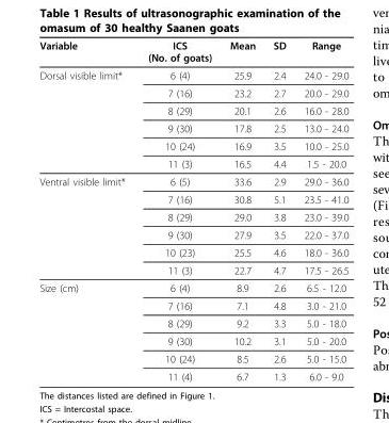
<table><thead><tr><td>Variable</td><td>ICS (No. of goats)</td><td>Mean</td><td>SD</td><td>Range</td></tr></thead><tbody><tr><td rowspan="6">Dorsal visible limit*</td><td>6 (4)</td><td>25.9</td><td>2.4</td><td>24.0 - 29.0</td></tr><tr><td>7 (16)</td><td>23.2</td><td>2.7</td><td>20.0 - 29.0</td></tr><tr><td>8 (29)</td><td>20.1</td><td>2.6</td><td>16.0 - 28.0</td></tr><tr><td>9 (30)</td><td>17.8</td><td>2.5</td><td>13.0 - 24.0</td></tr><tr><td>10 (24)</td><td>16.9</td><td>3.5</td><td>10.0 - 25.0</td></tr><tr><td>11 (3)</td><td>16.5</td><td>4.4</td><td>1.5 - 20.0</td></tr><tr><td rowspan="6">Ventral visible limit*</td><td>6 (5)</td><td>33.6</td><td>2.9</td><td>29.0 - 36.0</td></tr><tr><td>7 (16)</td><td>30.8</td><td>5.1</td><td>23.5 - 41.0</td></tr><tr><td>8 (29)</td><td>29.0</td><td>3.8</td><td>23.0 - 39.0</td></tr><tr><td>9 (30)</td><td>27.9</td><td>3.5</td><td>22.0 - 37.0</td></tr><tr><td>10 (23)</td><td>25.5</td><td>4.6</td><td>18.0 - 36.0</td></tr><tr><td>11 (3)</td><td>22.7</td><td>4.7</td><td>17.5 - 26.5</td></tr><tr><td rowspan="6">Size (cm)</td><td>6 (4)</td><td>8.9</td><td>2.6</td><td>6.5 - 12.0</td></tr><tr><td>7 (16)</td><td>7.1</td><td>4.8</td><td>3.0 - 21.0</td></tr><tr><td>8 (29)</td><td>9.2</td><td>3.3</td><td>5.0 - 18.0</td></tr><tr><td>9 (30)</td><td>10.2</td><td>3.1</td><td>5.0 - 20.0</td></tr><tr><td>10 (24)</td><td>8.5</td><td>2.6</td><td>5.0 - 15.0</td></tr><tr><td>11 (4)</td><td>6.7</td><td>1.3</td><td>6.0 - 9.0</td></tr></tbody></table>